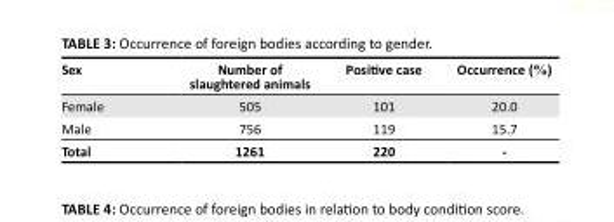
<table><thead><tr><td>Sex</td><td>Number of slaughtered animals</td><td>Positive case</td><td>Occurrence (%)</td></tr></thead><tbody><tr><td>Female</td><td>505</td><td>101</td><td>20.0</td></tr><tr><td>Male</td><td>756</td><td>119</td><td>15.7</td></tr><tr><td>Total</td><td>1261</td><td>220</td><td>-</td></tr></tbody></table>